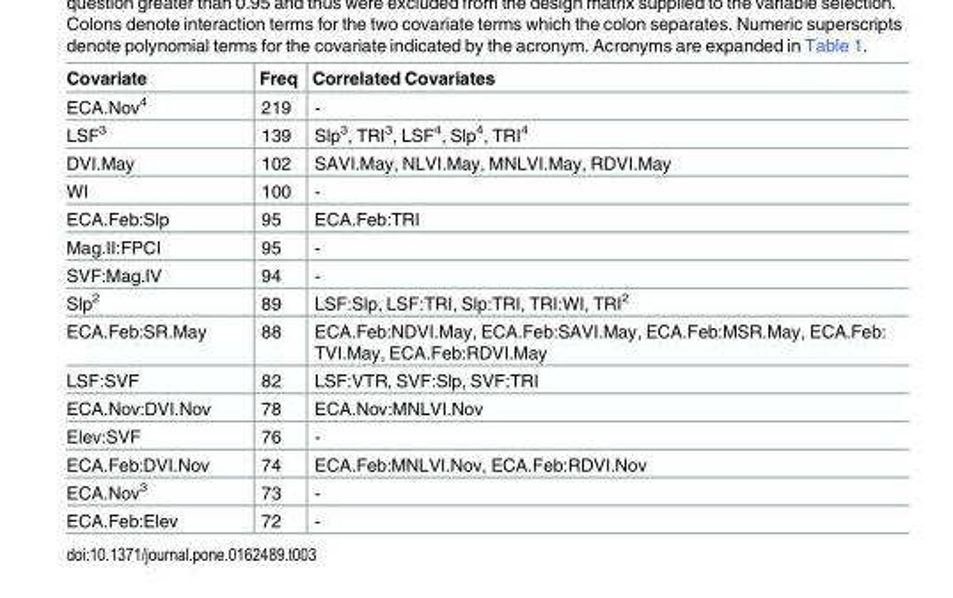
<table><thead><tr><td>Covariate</td><td>Freq</td><td>Correlated Covariates</td></tr></thead><tbody><tr><td>ECA.Nov<sup>4</sup></td><td>219</td><td>-</td></tr><tr><td>LSF<sup>3</sup></td><td>139</td><td>Slp<sup>3</sup>, TRI<sup>3</sup>, LSF<sup>4</sup>, Slp<sup>4</sup>, TRI<sup>4</sup></td></tr><tr><td>DVI.May</td><td>102</td><td>SAVI.May, NLVI.May, MNLVI.May, RDVI.May</td></tr><tr><td>WI</td><td>100</td><td>-</td></tr><tr><td>ECA.Feb:Slp</td><td>95</td><td>ECA.Feb:TRI</td></tr><tr><td>Mag.II:FPCI</td><td>95</td><td>-</td></tr><tr><td>SVF:Mag.IV</td><td>94</td><td>-</td></tr><tr><td>Slp<sup>2</sup></td><td>89</td><td>LSF:Slp, LSF:TRI, Slp:TRI, TRI:WI, TRI<sup>2</sup></td></tr><tr><td>ECA.Feb:SR.May</td><td>88</td><td>ECA.Feb:NDVI.May, ECA.Feb:SAVI.May, ECA.Feb:MSR.May, ECA.Feb: TVI.May, ECA.Feb:RDVI.May</td></tr><tr><td>LSF:SVF</td><td>82</td><td>LSF:VTR, SVF:Slp, SVF:TRI</td></tr><tr><td>ECA.Nov:DVI.Nov</td><td>78</td><td>ECA.Nov:MNLVI.Nov</td></tr><tr><td>Elev:SVF</td><td>76</td><td>-</td></tr><tr><td>ECA.Feb:DVI.Nov</td><td>74</td><td>ECA.Feb:MNLVI.Nov, ECA.Feb:RDVI.Nov</td></tr><tr><td>ECA.Nov<sup>3</sup></td><td>73</td><td>-</td></tr><tr><td>ECA.Feb:Elev</td><td>72</td><td>-</td></tr></tbody></table>